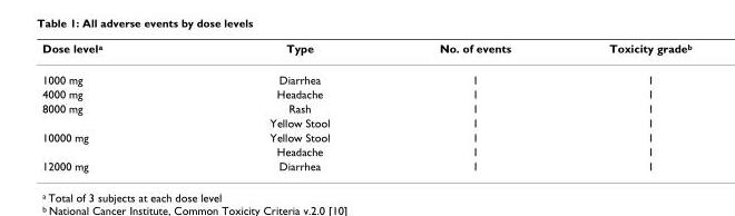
<table><thead><tr><td>Dose level<sup>a</sup></td><td>Type</td><td>No. of events</td><td>Toxicity grade<sup>b</sup></td></tr></thead><tbody><tr><td>1000 mg</td><td>Diarrhea</td><td>1</td><td>1</td></tr><tr><td>4000 mg</td><td>Headache</td><td>1</td><td>1</td></tr><tr><td rowspan="2">8000 mg</td><td>Rash</td><td>1</td><td>1</td></tr><tr><td>Yellow Stool</td><td>1</td><td>1</td></tr><tr><td rowspan="2">10000 mg</td><td>Yellow Stool</td><td>1</td><td>1</td></tr><tr><td>Headache</td><td>1</td><td>1</td></tr><tr><td>12000 mg</td><td>Diarrhea</td><td>1</td><td>1</td></tr></tbody></table>